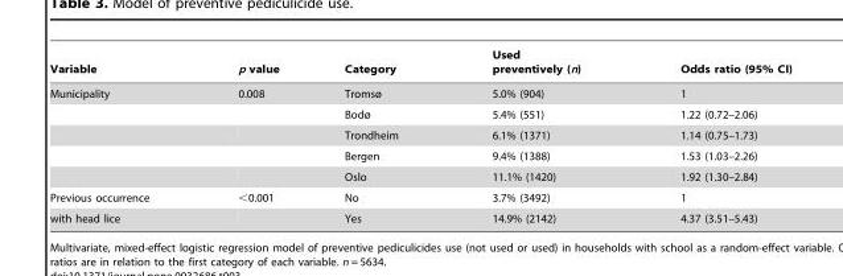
<table><thead><tr><td>Variable</td><td>p value</td><td>Category</td><td>Used preventively (n)</td><td>Odds ratio (95% CI)</td></tr></thead><tbody><tr><td rowspan="5">Municipality</td><td>0.008</td><td>Tromsø</td><td>5.0% (904)</td><td>1</td></tr><tr><td></td><td>Bodø</td><td>5.4% (551)</td><td>1.22 (0.72–2.06)</td></tr><tr><td></td><td>Trondheim</td><td>6.1% (1371)</td><td>1.14 (0.75–1.73)</td></tr><tr><td></td><td>Bergen</td><td>9.4% (1388)</td><td>1.53 (1.03–2.26)</td></tr><tr><td></td><td>Oslo</td><td>11.1% (1420)</td><td>1.92 (1.30–2.84)</td></tr><tr><td>Previous occurrence</td><td>&lt;0.001</td><td>No</td><td>3.7% (3492)</td><td>1</td></tr><tr><td>with head lice</td><td></td><td>Yes</td><td>14.9% (2142)</td><td>4.37 (3.51–5.43)</td></tr></tbody></table>